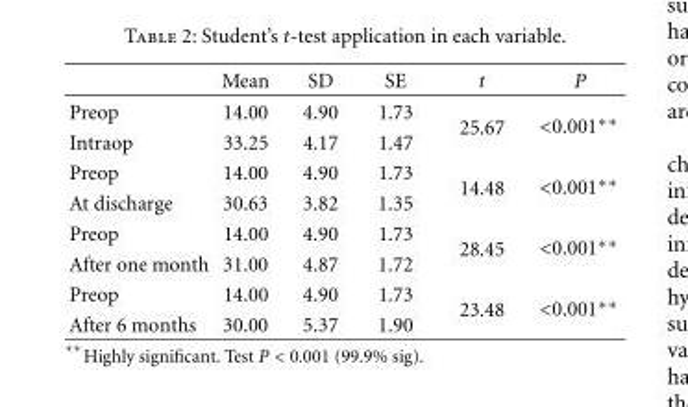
<table><thead><tr><td></td><td>Mean</td><td>SD</td><td>SE</td><td>t</td><td>P</td></tr></thead><tbody><tr><td>Preop</td><td>14.00</td><td>4.90</td><td>1.73</td><td rowspan="2">25.67</td><td rowspan="2">&lt;0.001∗∗</td></tr><tr><td>Intraop</td><td>33.25</td><td>4.17</td><td>1.47</td></tr><tr><td>Preop</td><td>14.00</td><td>4.90</td><td>1.73</td><td rowspan="2">14.48</td><td rowspan="2">&lt;0.001∗∗</td></tr><tr><td>At discharge</td><td>30.63</td><td>3.82</td><td>1.35</td></tr><tr><td>Preop</td><td>14.00</td><td>4.90</td><td>1.73</td><td rowspan="2">28.45</td><td rowspan="2">&lt;0.001∗∗</td></tr><tr><td>After one month</td><td>31.00</td><td>4.87</td><td>1.72</td></tr><tr><td>Preop</td><td>14.00</td><td>4.90</td><td>1.73</td><td rowspan="2">23.48</td><td rowspan="2">&lt;0.001∗∗</td></tr><tr><td>After 6 months</td><td>30.00</td><td>5.37</td><td>1.90</td></tr></tbody></table>